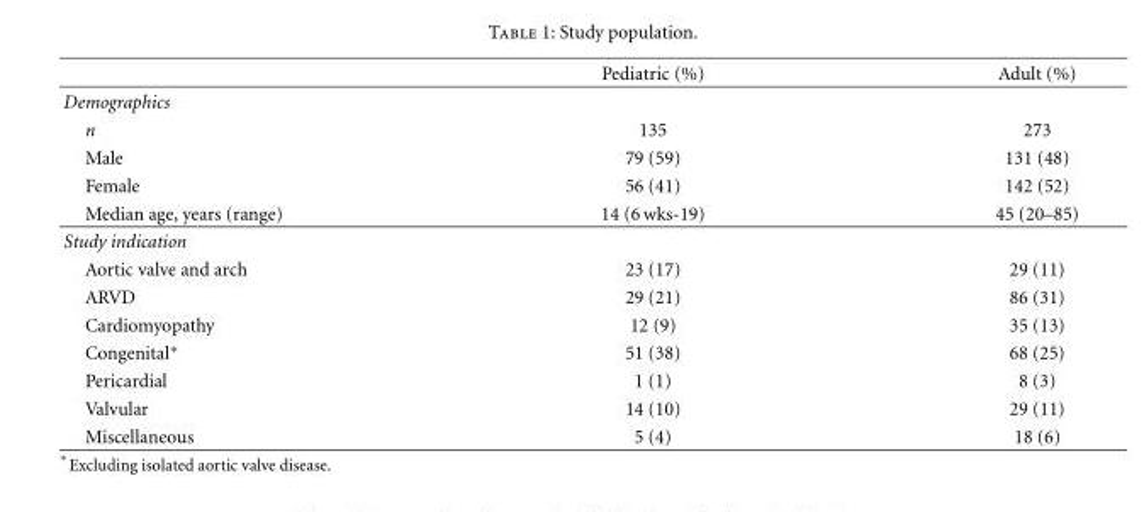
<table><thead><tr><td></td><td>Pediatric (%)</td><td>Adult (%)</td></tr></thead><tbody><tr><td colspan="3">Demographics</td></tr><tr><td>n</td><td>135</td><td>273</td></tr><tr><td>Male</td><td>79 (59)</td><td>131 (48)</td></tr><tr><td>Female</td><td>56 (41)</td><td>142 (52)</td></tr><tr><td>Median age, years (range)</td><td>14 (6 wks-19)</td><td>45 (20–85)</td></tr><tr><td colspan="3">Study indication</td></tr><tr><td>Aortic valve and arch</td><td>23 (17)</td><td>29 (11)</td></tr><tr><td>ARVD</td><td>29 (21)</td><td>86 (31)</td></tr><tr><td>Cardiomyopathy</td><td>12 (9)</td><td>35 (13)</td></tr><tr><td>Congenital∗</td><td>51 (38)</td><td>68 (25)</td></tr><tr><td>Pericardial</td><td>1 (1)</td><td>8 (3)</td></tr><tr><td>Valvular</td><td>14 (10)</td><td>29 (11)</td></tr><tr><td>Miscellaneous</td><td>5 (4)</td><td>18 (6)</td></tr></tbody></table>